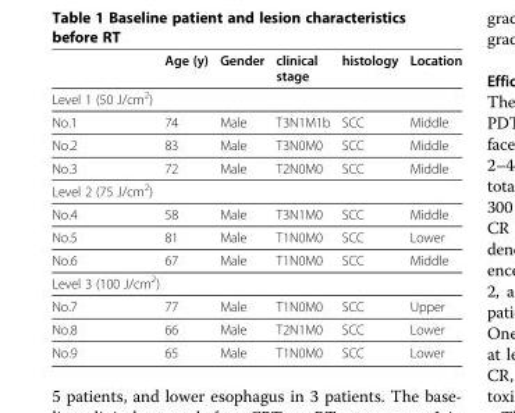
<table><thead><tr><td></td><td>Age (y)</td><td>Gender</td><td>clinical stage</td><td>histology</td><td>Location</td></tr></thead><tbody><tr><td colspan="6">Level 1 (50 J/cm<sup>2</sup>)</td></tr><tr><td>No.1</td><td>74</td><td>Male</td><td>T3N1M1b</td><td>SCC</td><td>Middle</td></tr><tr><td>No.2</td><td>83</td><td>Male</td><td>T3N0M0</td><td>SCC</td><td>Middle</td></tr><tr><td>No.3</td><td>72</td><td>Male</td><td>T2N0M0</td><td>SCC</td><td>Middle</td></tr><tr><td colspan="6">Level 2 (75 J/cm<sup>2</sup>)</td></tr><tr><td>No.4</td><td>58</td><td>Male</td><td>T3N1M0</td><td>SCC</td><td>Middle</td></tr><tr><td>No.5</td><td>81</td><td>Male</td><td>T1N0M0</td><td>SCC</td><td>Lower</td></tr><tr><td>No.6</td><td>67</td><td>Male</td><td>T1N0M0</td><td>SCC</td><td>Middle</td></tr><tr><td colspan="6">Level 3 (100 J/cm<sup>2</sup>)</td></tr><tr><td>No.7</td><td>77</td><td>Male</td><td>T1N0M0</td><td>SCC</td><td>Upper</td></tr><tr><td>No.8</td><td>66</td><td>Male</td><td>T2N1M0</td><td>SCC</td><td>Lower</td></tr><tr><td>No.9</td><td>65</td><td>Male</td><td>T1N0M0</td><td>SCC</td><td>Lower</td></tr></tbody></table>